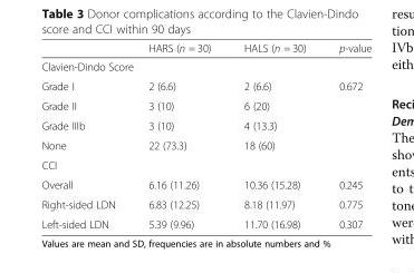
<table><thead><tr><td></td><td>HARS (n = 30)</td><td>HALS (n = 30)</td><td>p-value</td></tr></thead><tbody><tr><td colspan="4">Clavien-Dindo Score</td></tr><tr><td>Grade I</td><td>2 (6.6)</td><td>2 (6.6)</td><td rowspan="4">0.672</td></tr><tr><td>Grade II</td><td>3 (10)</td><td>6 (20)</td></tr><tr><td>Grade IIIb</td><td>3 (10)</td><td>4 (13.3)</td></tr><tr><td>None</td><td>22 (73.3)</td><td>18 (60)</td></tr><tr><td colspan="4">CCI</td></tr><tr><td>Overall</td><td>6.16 (11.26)</td><td>10.36 (15.28)</td><td>0.245</td></tr><tr><td>Right-sided LDN</td><td>6.83 (12.25)</td><td>8.18 (11.97)</td><td>0.775</td></tr><tr><td>Left-sided LDN</td><td>5.39 (9.96)</td><td>11.70 (16.98)</td><td>0.307</td></tr></tbody></table>